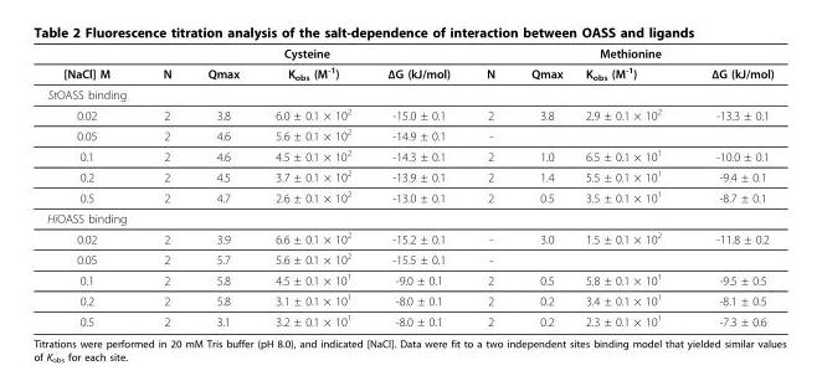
<table><thead><tr><td rowspan="2">[NaCl] M</td><td colspan="4">Cysteine</td><td colspan="4">Methionine</td></tr><tr><td>N</td><td>Qmax</td><td>K<sub>obs</sub> (M<sup>-1</sup>)</td><td>ΔG (kJ/mol)</td><td>N</td><td>Qmax</td><td>K<sub>obs</sub> (M<sup>-1</sup>)</td><td>ΔG (kJ/mol)</td></tr></thead><tbody><tr><td colspan="9">StOASS binding</td></tr><tr><td>0.02</td><td>2</td><td>3.8</td><td>6.0 ± 0.1 × 10<sup>2</sup></td><td>-15.0 ± 0.1</td><td>2</td><td>3.8</td><td>2.9 ± 0.1 × 10<sup>2</sup></td><td>-13.3 ± 0.1</td></tr><tr><td>0.05</td><td>2</td><td>4.6</td><td>5.6 ± 0.1 × 10<sup>2</sup></td><td>-14.9 ± 0.1</td><td>-</td><td></td><td></td><td></td></tr><tr><td>0.1</td><td>2</td><td>4.6</td><td>4.5 ± 0.1 × 10<sup>2</sup></td><td>-14.3 ± 0.1</td><td>2</td><td>1.0</td><td>6.5 ± 0.1 × 10<sup>1</sup></td><td>-10.0 ± 0.1</td></tr><tr><td>0.2</td><td>2</td><td>4.5</td><td>3.7 ± 0.1 × 10<sup>2</sup></td><td>-13.9 ± 0.1</td><td>2</td><td>1.4</td><td>5.5 ± 0.1 × 10<sup>1</sup></td><td>-9.4 ± 0.1</td></tr><tr><td>0.5</td><td>2</td><td>4.7</td><td>2.6 ± 0.1 × 10<sup>2</sup></td><td>-13.0 ± 0.1</td><td>2</td><td>0.5</td><td>3.5 ± 0.1 × 10<sup>1</sup></td><td>-8.7 ± 0.1</td></tr><tr><td colspan="9">HiOASS binding</td></tr><tr><td>0.02</td><td>2</td><td>3.9</td><td>6.6 ± 0.1 × 10<sup>2</sup></td><td>-15.2 ± 0.1</td><td>-</td><td>3.0</td><td>1.5 ± 0.1 × 10<sup>2</sup></td><td>-11.8 ± 0.2</td></tr><tr><td>0.05</td><td>2</td><td>5.7</td><td>5.6 ± 0.1 × 10<sup>2</sup></td><td>-15.5 ± 0.1</td><td>-</td><td></td><td></td><td></td></tr><tr><td>0.1</td><td>2</td><td>5.8</td><td>4.5 ± 0.1 × 10<sup>1</sup></td><td>-9.0 ± 0.1</td><td>2</td><td>0.5</td><td>5.8 ± 0.1 × 10<sup>1</sup></td><td>-9.5 ± 0.5</td></tr><tr><td>0.2</td><td>2</td><td>5.8</td><td>3.1 ± 0.1 × 10<sup>1</sup></td><td>-8.0 ± 0.1</td><td>2</td><td>0.2</td><td>3.4 ± 0.1 × 10<sup>1</sup></td><td>-8.1 ± 0.5</td></tr><tr><td>0.5</td><td>2</td><td>3.1</td><td>3.2 ± 0.1 × 10<sup>1</sup></td><td>-8.0 ± 0.1</td><td>2</td><td>0.2</td><td>2.3 ± 0.1 × 10<sup>1</sup></td><td>-7.3 ± 0.6</td></tr></tbody></table>